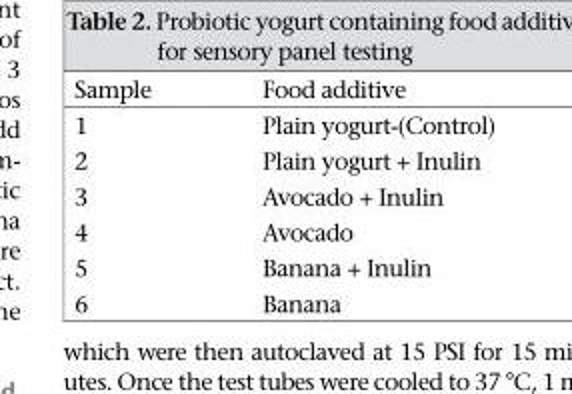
<table><thead><tr><td>Sample</td><td>Food additive</td></tr></thead><tbody><tr><td>1</td><td>Plain yogurt-(Control)</td></tr><tr><td>2</td><td>Plain yogurt + Inulin</td></tr><tr><td>3</td><td>Avocado + Inulin</td></tr><tr><td>4</td><td>Avocado</td></tr><tr><td>5</td><td>Banana + Inulin</td></tr><tr><td>6</td><td>Banana</td></tr></tbody></table>